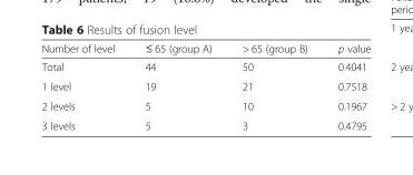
<table><thead><tr><td>Number of level</td><td>≤ 65 (group A)</td><td>&gt; 65 (group B)</td><td>p value</td></tr></thead><tbody><tr><td>Total</td><td>44</td><td>50</td><td>0.4041</td></tr><tr><td>1 level</td><td>19</td><td>21</td><td>0.7518</td></tr><tr><td>2 levels</td><td>5</td><td>10</td><td>0.1967</td></tr><tr><td>3 levels</td><td>5</td><td>3</td><td>0.4795</td></tr></tbody></table>